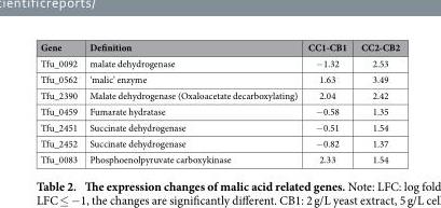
<table><thead><tr><td>Gene</td><td>Definition</td><td>CC1-CB1</td><td>CC2-CB2</td></tr></thead><tbody><tr><td>Tfu_0092</td><td>malate dehydrogenase</td><td>− 1.32</td><td>2.53</td></tr><tr><td>Tfu_0562</td><td>‘malic’ enzyme</td><td>1.63</td><td>3.49</td></tr><tr><td>Tfu_2390</td><td>Malate dehydrogenase (Oxaloacetate decarboxylating)</td><td>2.04</td><td>2.42</td></tr><tr><td>Tfu_0459</td><td>Fumarate hydratase</td><td>− 0.58</td><td>1.35</td></tr><tr><td>Tfu_2451</td><td>Succinate dehydrogenase</td><td>− 0.51</td><td>1.54</td></tr><tr><td>Tfu_2452</td><td>Succinate dehydrogenase</td><td>− 0.82</td><td>1.37</td></tr><tr><td>Tfu_0083</td><td>Phosphoenolpyruvate carboxykinase</td><td>2.33</td><td>1.54</td></tr></tbody></table>